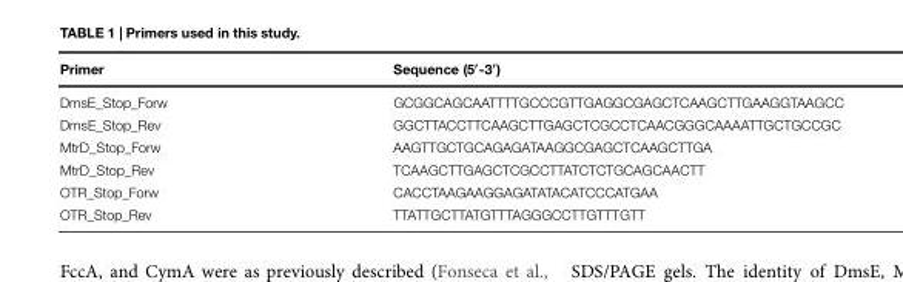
<table><thead><tr><td>Primer</td><td>Sequence (5′-3′)</td></tr></thead><tbody><tr><td>DmsE_Stop_Forw</td><td>GCGGCAGCAATTTTGCCCGTTGAGGCGAGCTCAAGCTTGAAGGTAAGCC</td></tr><tr><td>DmsE_Stop_Rev</td><td>GGCTTACCTTCAAGCTTGAGCTCGCCTCAACGGGCAAAATTGCTGCCGC</td></tr><tr><td>MtrD_Stop_Forw</td><td>AAGTTGCTGCAGAGATAAGGCGAGCTCAAGCTTGA</td></tr><tr><td>MtrD_Stop_Rev</td><td>TCAAGCTTGAGCTCGCCTTATCTCTGCAGCAACTT</td></tr><tr><td>OTR_Stop_Forw</td><td>CACCTAAGAAGGAGATATACATCCCATGAA</td></tr><tr><td>OTR_Stop_Rev</td><td>TTATTGCTTATGTTTAGGGCCTTGTTTGTT</td></tr></tbody></table>